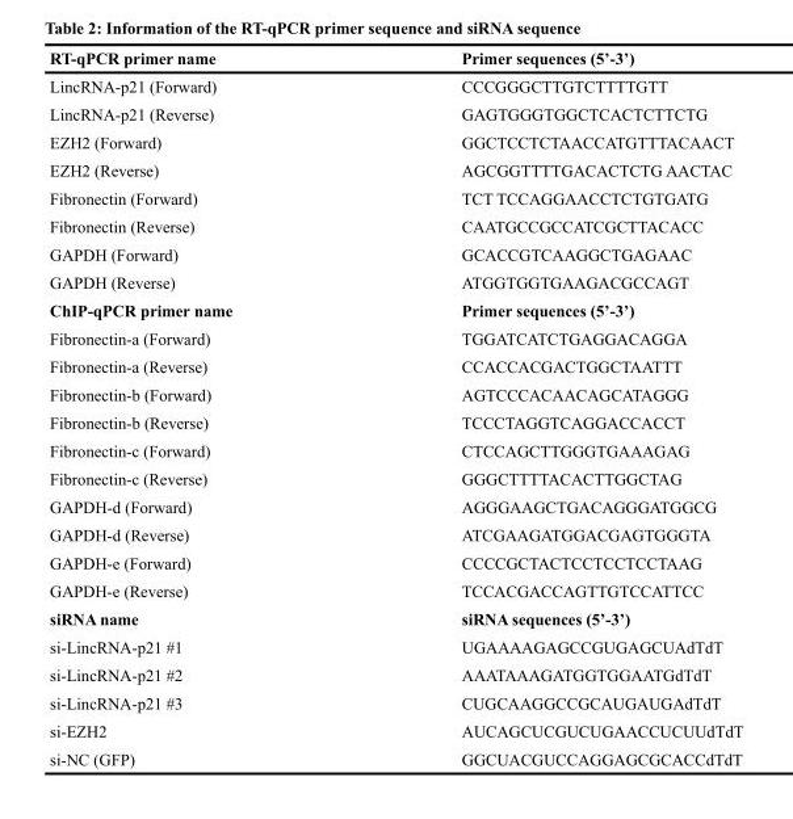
<table><thead><tr><td>RT-qPCR primer name</td><td>Primer sequences (5’-3’)</td></tr></thead><tbody><tr><td>LincRNA-p21 (Forward)</td><td>CCCGGGCTTGTCTTTTGTT</td></tr><tr><td>LincRNA-p21 (Reverse)</td><td>GAGTGGGTGGCTCACTCTTCTG</td></tr><tr><td>EZH2 (Forward)</td><td>GGCTCCTCTAACCATGTTTACAACT</td></tr><tr><td>EZH2 (Reverse)</td><td>AGCGGTTTTGACACTCTG AACTAC</td></tr><tr><td>Fibronectin (Forward)</td><td>TCT TCCAGGAACCTCTGTGATG</td></tr><tr><td>Fibronectin (Reverse)</td><td>CAATGCCGCCATCGCTTACACC</td></tr><tr><td>GAPDH (Forward)</td><td>GCACCGTCAAGGCTGAGAAC</td></tr><tr><td>GAPDH (Reverse)</td><td>ATGGTGGTGAAGACGCCAGT</td></tr><tr><td>ChIP-qPCR primer name</td><td>Primer sequences (5’-3’)</td></tr><tr><td>Fibronectin-a (Forward)</td><td>TGGATCATCTGAGGACAGGA</td></tr><tr><td>Fibronectin-a (Reverse)</td><td>CCACCACGACTGGCTAATTT</td></tr><tr><td>Fibronectin-b (Forward)</td><td>AGTCCCACAACAGCATAGGG</td></tr><tr><td>Fibronectin-b (Reverse)</td><td>TCCCTAGGTCAGGACCACCT</td></tr><tr><td>Fibronectin-c (Forward)</td><td>CTCCAGCTTGGGTGAAAGAG</td></tr><tr><td>Fibronectin-c (Reverse)</td><td>GGGCTTTTACACTTGGCTAG</td></tr><tr><td>GAPDH-d (Forward)</td><td>AGGGAAGCTGACAGGGATGGCG</td></tr><tr><td>GAPDH-d (Reverse)</td><td>ATCGAAGATGGACGAGTGGGTA</td></tr><tr><td>GAPDH-e (Forward)</td><td>CCCCGCTACTCCTCCTCCTAAG</td></tr><tr><td>GAPDH-e (Reverse)</td><td>TCCACGACCAGTTGTCCATTCC</td></tr><tr><td>siRNA name</td><td>siRNA sequences (5’-3’)</td></tr><tr><td>si-LincRNA-p21 #1</td><td>UGAAAAGAGCCGUGAGCUAdTdT</td></tr><tr><td>si-LincRNA-p21 #2</td><td>AAATAAAGATGGTGGAATGdTdT</td></tr><tr><td>si-LincRNA-p21 #3</td><td>CUGCAAGGCCGCAUGAUGAdTdT</td></tr><tr><td>si-EZH2</td><td>AUCAGCUCGUCUGAACCUCUUdTdT</td></tr><tr><td>si-NC (GFP)</td><td>GGCUACGUCCAGGAGCGCACCdTdT</td></tr></tbody></table>